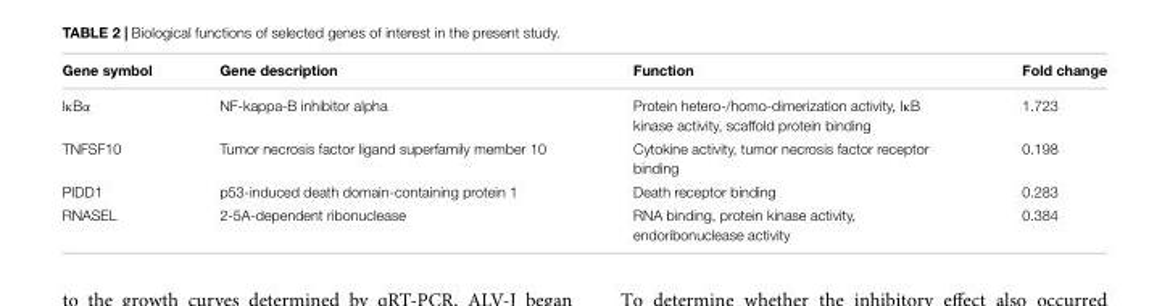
<table><thead><tr><td>Gene symbol</td><td>Gene description</td><td>Function</td><td>Fold change</td></tr></thead><tbody><tr><td>IκBα</td><td>NF-kappa-B inhibitor alpha</td><td>Protein hetero-/homo-dimerization activity, IκB kinase activity, scaffold protein binding</td><td>1.723</td></tr><tr><td>TNFSF10</td><td>Tumor necrosis factor ligand superfamily member 10</td><td>Cytokine activity, tumor necrosis factor receptor binding</td><td>0.198</td></tr><tr><td>PIDD1</td><td>p53-induced death domain-containing protein 1</td><td>Death receptor binding</td><td>0.283</td></tr><tr><td>RNASEL</td><td>2-5A-dependent ribonuclease</td><td>RNA binding, protein kinase activity, endoribonuclease activity</td><td>0.384</td></tr></tbody></table>